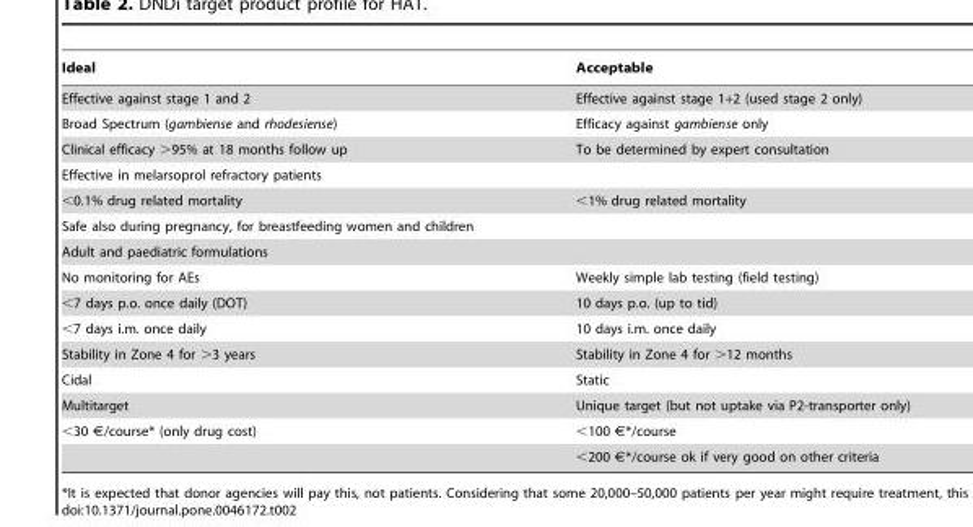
<table><thead><tr><td>Ideal</td><td>Acceptable</td></tr></thead><tbody><tr><td>Effective against stage 1 and 2</td><td>Effective against stage 1+2 (used stage 2 only)</td></tr><tr><td>Broad Spectrum (gambiense and rhodesiense)</td><td>Efficacy against gambiense only</td></tr><tr><td>Clinical efficacy &gt;95% at 18 months follow up</td><td>To be determined by expert consultation</td></tr><tr><td colspan="2">Effective in melarsoprol refractory patients</td></tr><tr><td>&lt;0.1% drug related mortality</td><td>&lt;1% drug related mortality</td></tr><tr><td colspan="2">Safe also during pregnancy, for breastfeeding women and children</td></tr><tr><td colspan="2">Adult and paediatric formulations</td></tr><tr><td>No monitoring for AEs</td><td>Weekly simple lab testing (field testing)</td></tr><tr><td>&lt;7 days p.o. once daily (DOT)</td><td>10 days p.o. (up to tid)</td></tr><tr><td>&lt;7 days i.m. once daily</td><td>10 days i.m. once daily</td></tr><tr><td>Stability in Zone 4 for &gt;3 years</td><td>Stability in Zone 4 for &gt;12 months</td></tr><tr><td>Cidal</td><td>Static</td></tr><tr><td>Multitarget</td><td>Unique target (but not uptake via P2-transporter only)</td></tr><tr><td rowspan="2">&lt;30 €/course* (only drug cost)</td><td>&lt;100 €*/course</td></tr><tr><td>&lt;200 €*/course ok if very good on other criteria</td></tr></tbody></table>